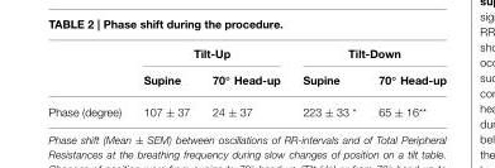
<table><thead><tr><td rowspan="2"></td><td colspan="2">Tilt-Up</td><td colspan="2">Tilt-Down</td></tr><tr><td>Supine</td><td>70◦ Head-up</td><td>Supine</td><td>70◦ Head-up</td></tr></thead><tbody><tr><td>Phase (degree)</td><td>107 ± 37</td><td>24 ± 37</td><td>223 ± 33 *</td><td>65 ± 16**</td></tr></tbody></table>